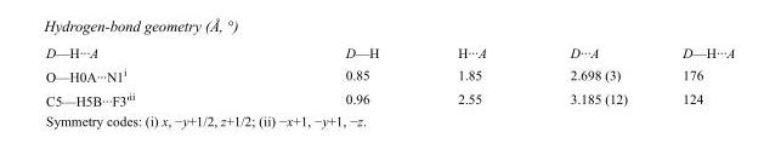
<table><tbody><tr><td>D—H···A</td><td>D—H</td><td>H···A</td><td>D···A</td><td>D—H···A</td></tr><tr><td>O—H0A···N1<sup>i</sup></td><td>0.85</td><td>1.85</td><td>2.698 (3)</td><td>176</td></tr><tr><td>C5—H5B···F3&#x27;<sup>ii</sup></td><td>0.96</td><td>2.55</td><td>3.185 (12)</td><td>124</td></tr></tbody></table>